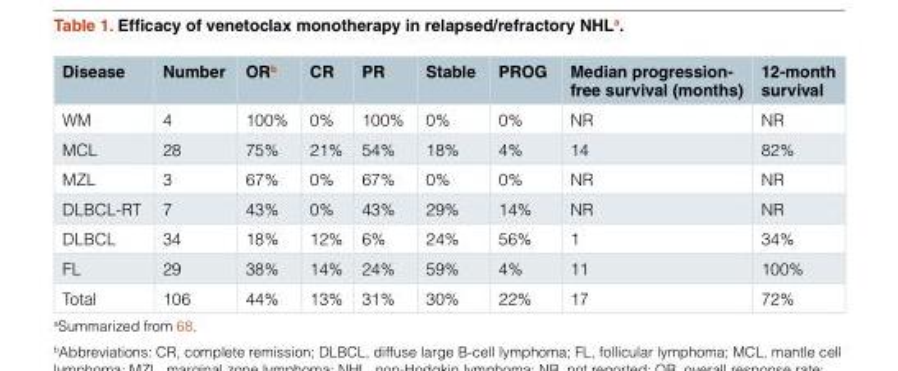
<table><thead><tr><td>Disease</td><td>Number</td><td>OR<sup>b</sup></td><td>CR</td><td>PR</td><td>Stable</td><td>PROG</td><td>Median progression- free survival (months)</td><td>12-month survival</td></tr></thead><tbody><tr><td>WM</td><td>4</td><td>100%</td><td>0%</td><td>100%</td><td>0%</td><td>0%</td><td>NR</td><td>NR</td></tr><tr><td>MCL</td><td>28</td><td>75%</td><td>21%</td><td>54%</td><td>18%</td><td>4%</td><td>14</td><td>82%</td></tr><tr><td>MZL</td><td>3</td><td>67%</td><td>0%</td><td>67%</td><td>0%</td><td>0%</td><td>NR</td><td>NR</td></tr><tr><td>DLBCL-RT</td><td>7</td><td>43%</td><td>0%</td><td>43%</td><td>29%</td><td>14%</td><td>NR</td><td>NR</td></tr><tr><td>DLBCL</td><td>34</td><td>18%</td><td>12%</td><td>6%</td><td>24%</td><td>56%</td><td>1</td><td>34%</td></tr><tr><td>FL</td><td>29</td><td>38%</td><td>14%</td><td>24%</td><td>59%</td><td>4%</td><td>11</td><td>100%</td></tr><tr><td>Total</td><td>106</td><td>44%</td><td>13%</td><td>31%</td><td>30%</td><td>22%</td><td>17</td><td>72%</td></tr></tbody></table>